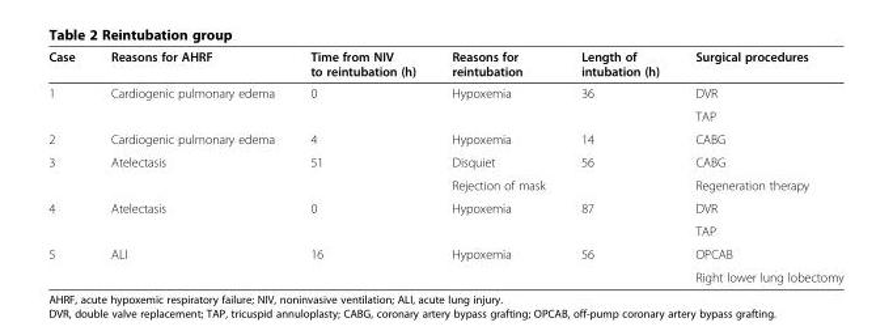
<table><thead><tr><td>Case</td><td>Reasons for AHRF</td><td>Time from NIV to reintubation (h)</td><td>Reasons for reintubation</td><td>Length of intubation (h)</td><td>Surgical procedures</td></tr></thead><tbody><tr><td rowspan="2">1</td><td>Cardiogenic pulmonary edema</td><td>0</td><td>Hypoxemia</td><td>36</td><td>DVR</td></tr><tr><td></td><td></td><td></td><td></td><td>TAP</td></tr><tr><td>2</td><td>Cardiogenic pulmonary edema</td><td>4</td><td>Hypoxemia</td><td>14</td><td>CABG</td></tr><tr><td rowspan="2">3</td><td>Atelectasis</td><td>51</td><td>Disquiet</td><td>56</td><td>CABG</td></tr><tr><td></td><td></td><td>Rejection of mask</td><td></td><td>Regeneration therapy</td></tr><tr><td rowspan="2">4</td><td>Atelectasis</td><td>0</td><td>Hypoxemia</td><td>87</td><td>DVR</td></tr><tr><td></td><td></td><td></td><td></td><td>TAP</td></tr><tr><td rowspan="2">5</td><td>ALI</td><td>16</td><td>Hypoxemia</td><td>56</td><td>OPCAB</td></tr><tr><td></td><td></td><td></td><td></td><td>Right lower lung lobectomy</td></tr></tbody></table>